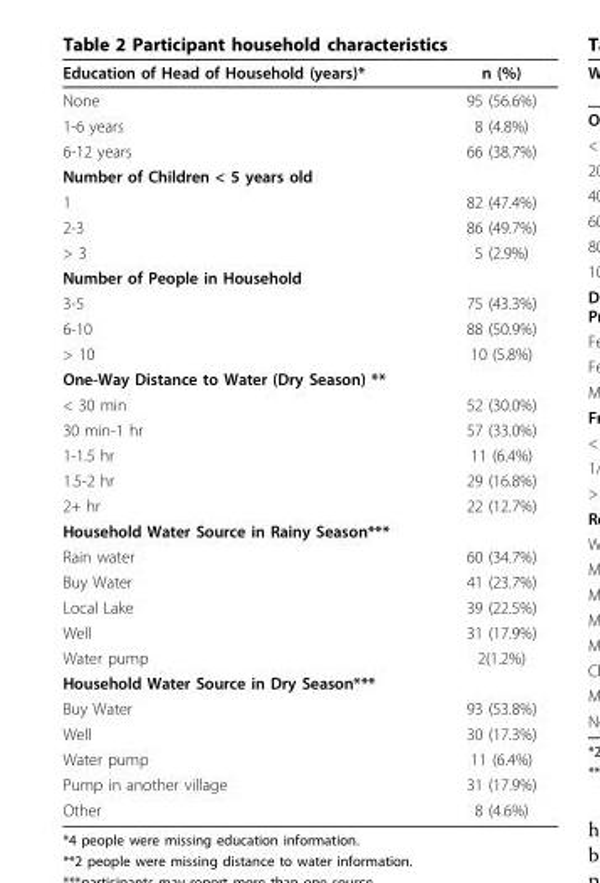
<table><thead><tr><td>Education of Head of Household (years)*</td><td>n (%)</td></tr></thead><tbody><tr><td>None</td><td>95 (56.6%)</td></tr><tr><td>1-6 years</td><td>8 (4.8%)</td></tr><tr><td>6-12 years</td><td>66 (38.7%)</td></tr><tr><td colspan="2">Number of Children &lt; 5 years old</td></tr><tr><td>1</td><td>82 (47.4%)</td></tr><tr><td>2-3</td><td>86 (49.7%)</td></tr><tr><td>&gt; 3</td><td>5 (2.9%)</td></tr><tr><td colspan="2">Number of People in Household</td></tr><tr><td>3-5</td><td>75 (43.3%)</td></tr><tr><td>6-10</td><td>88 (50.9%)</td></tr><tr><td>&gt; 10</td><td>10 (5.8%)</td></tr><tr><td colspan="2">One-Way Distance to Water (Dry Season) **</td></tr><tr><td>&lt; 30 min</td><td>52 (30.0%)</td></tr><tr><td>30 min-1 hr</td><td>57 (33.0%)</td></tr><tr><td>1-1.5 hr</td><td>11 (6.4%)</td></tr><tr><td>1.5-2 hr</td><td>29 (16.8%)</td></tr><tr><td>2+ hr</td><td>22 (12.7%)</td></tr><tr><td colspan="2">Household Water Source in Rainy Season***</td></tr><tr><td>Rain water</td><td>60 (34.7%)</td></tr><tr><td>Buy Water</td><td>41 (23.7%)</td></tr><tr><td>Local Lake</td><td>39 (22.5%)</td></tr><tr><td>Well</td><td>31 (17.9%)</td></tr><tr><td>Water pump</td><td>2(1.2%)</td></tr><tr><td colspan="2">Household Water Source in Dry Season***</td></tr><tr><td>Buy Water</td><td>93 (53.8%)</td></tr><tr><td>Well</td><td>30 (17.3%)</td></tr><tr><td>Water pump</td><td>11 (6.4%)</td></tr><tr><td>Pump in another village</td><td>31 (17.9%)</td></tr><tr><td>Other</td><td>8 (4.6%)</td></tr></tbody></table>